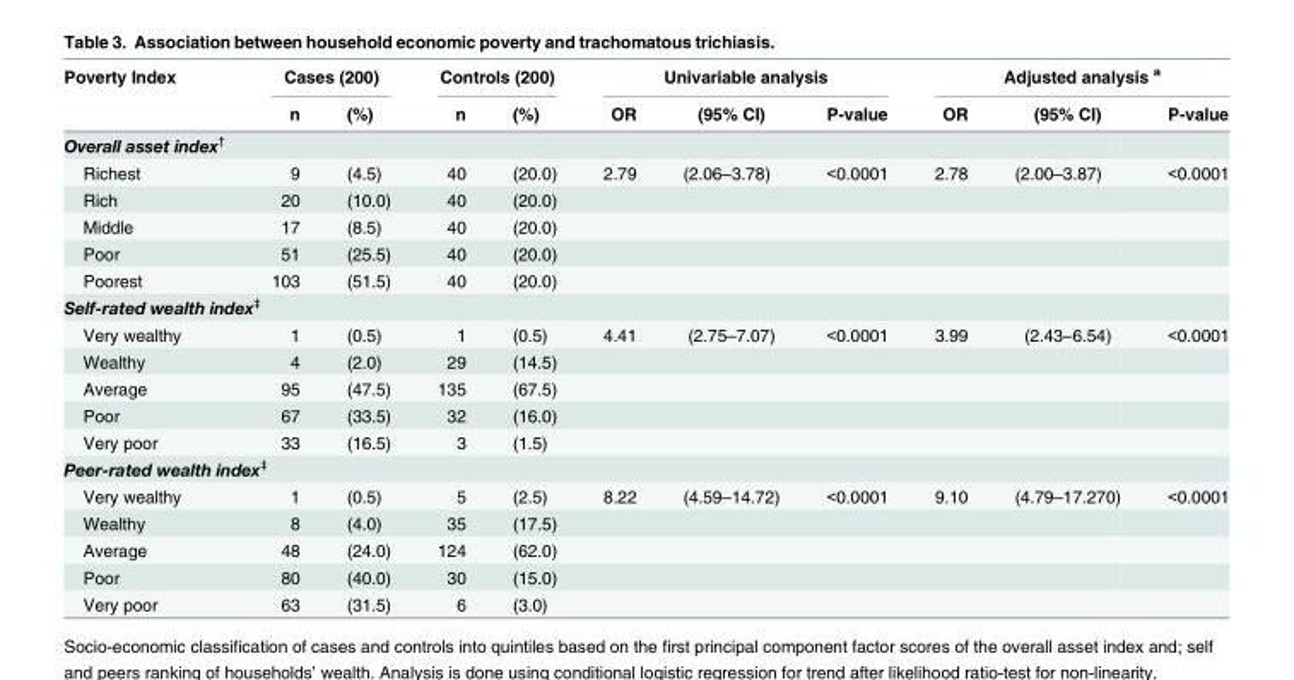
<table><thead><tr><td rowspan="2">Poverty Index</td><td colspan="2">Cases (200)</td><td colspan="2">Controls (200)</td><td colspan="3">Univariable analysis</td><td colspan="3">Adjusted analysis <sup>a</sup></td></tr><tr><td>n</td><td>(%)</td><td>n</td><td>(%)</td><td>OR</td><td>(95% CI)</td><td>P-value</td><td>OR</td><td>(95% CI)</td><td>P-value</td></tr></thead><tbody><tr><td colspan="11">Overall asset index<sup>†</sup></td></tr><tr><td>Richest</td><td>9</td><td>(4.5)</td><td>40</td><td>(20.0)</td><td>2.79</td><td>(2.06–3.78)</td><td>&lt;0.0001</td><td>2.78</td><td>(2.00–3.87)</td><td>&lt;0.0001</td></tr><tr><td>Rich</td><td>20</td><td>(10.0)</td><td>40</td><td>(20.0)</td><td></td><td></td><td></td><td></td><td></td><td></td></tr><tr><td>Middle</td><td>17</td><td>(8.5)</td><td>40</td><td>(20.0)</td><td></td><td></td><td></td><td></td><td></td><td></td></tr><tr><td>Poor</td><td>51</td><td>(25.5)</td><td>40</td><td>(20.0)</td><td></td><td></td><td></td><td></td><td></td><td></td></tr><tr><td>Poorest</td><td>103</td><td>(51.5)</td><td>40</td><td>(20.0)</td><td></td><td></td><td></td><td></td><td></td><td></td></tr><tr><td colspan="11">Self-rated wealth index<sup>‡</sup></td></tr><tr><td>Very wealthy</td><td>1</td><td>(0.5)</td><td>1</td><td>(0.5)</td><td>4.41</td><td>(2.75–7.07)</td><td>&lt;0.0001</td><td>3.99</td><td>(2.43–6.54)</td><td>&lt;0.0001</td></tr><tr><td>Wealthy</td><td>4</td><td>(2.0)</td><td>29</td><td>(14.5)</td><td></td><td></td><td></td><td></td><td></td><td></td></tr><tr><td>Average</td><td>95</td><td>(47.5)</td><td>135</td><td>(67.5)</td><td></td><td></td><td></td><td></td><td></td><td></td></tr><tr><td>Poor</td><td>67</td><td>(33.5)</td><td>32</td><td>(16.0)</td><td></td><td></td><td></td><td></td><td></td><td></td></tr><tr><td>Very poor</td><td>33</td><td>(16.5)</td><td>3</td><td>(1.5)</td><td></td><td></td><td></td><td></td><td></td><td></td></tr><tr><td colspan="11">Peer-rated wealth index<sup>‡</sup></td></tr><tr><td>Very wealthy</td><td>1</td><td>(0.5)</td><td>5</td><td>(2.5)</td><td>8.22</td><td>(4.59–14.72)</td><td>&lt;0.0001</td><td>9.10</td><td>(4.79–17.270)</td><td>&lt;0.0001</td></tr><tr><td>Wealthy</td><td>8</td><td>(4.0)</td><td>35</td><td>(17.5)</td><td></td><td></td><td></td><td></td><td></td><td></td></tr><tr><td>Average</td><td>48</td><td>(24.0)</td><td>124</td><td>(62.0)</td><td></td><td></td><td></td><td></td><td></td><td></td></tr><tr><td>Poor</td><td>80</td><td>(40.0)</td><td>30</td><td>(15.0)</td><td></td><td></td><td></td><td></td><td></td><td></td></tr><tr><td>Very poor</td><td>63</td><td>(31.5)</td><td>6</td><td>(3.0)</td><td></td><td></td><td></td><td></td><td></td><td></td></tr></tbody></table>